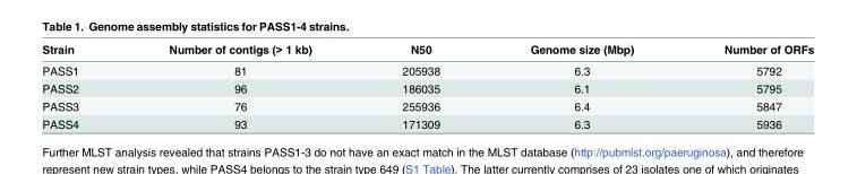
<table><thead><tr><td>Strain</td><td>Number of contigs (&gt; 1 kb)</td><td>N50</td><td>Genome size (Mbp)</td><td>Number of ORFs</td></tr></thead><tbody><tr><td>PASS1</td><td>81</td><td>205938</td><td>6.3</td><td>5792</td></tr><tr><td>PASS2</td><td>96</td><td>186035</td><td>6.1</td><td>5795</td></tr><tr><td>PASS3</td><td>76</td><td>255936</td><td>6.4</td><td>5847</td></tr><tr><td>PASS4</td><td>93</td><td>171309</td><td>6.3</td><td>5936</td></tr></tbody></table>